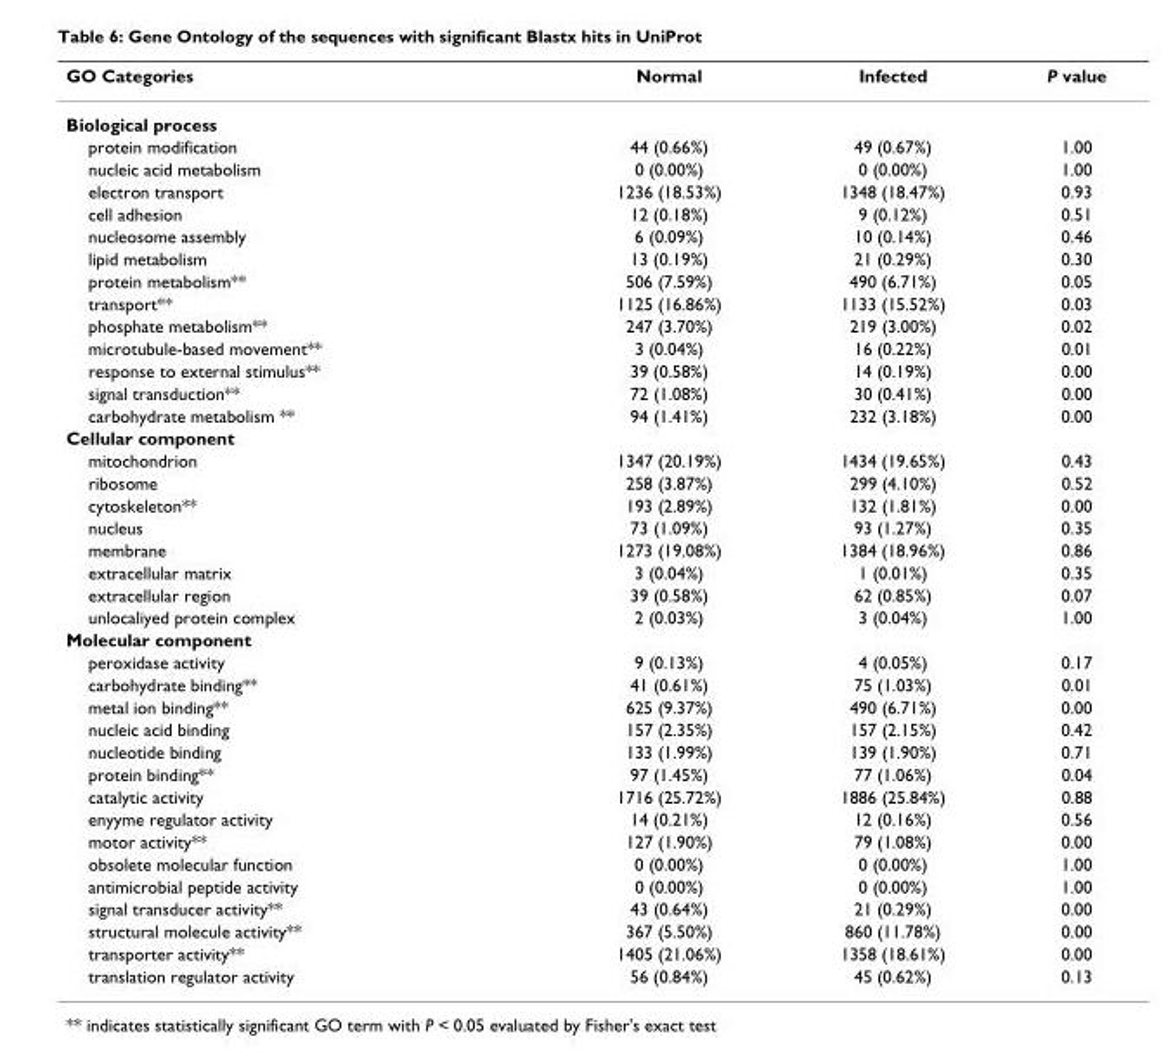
<table><thead><tr><td>GO Categories</td><td>Normal</td><td>Infected</td><td>P value</td></tr></thead><tbody><tr><td colspan="4">Biological process</td></tr><tr><td>protein modification</td><td>44 (0.66%)</td><td>49 (0.67%)</td><td>1.00</td></tr><tr><td>nucleic acid metabolism</td><td>0 (0.00%)</td><td>0 (0.00%)</td><td>1.00</td></tr><tr><td>electron transport</td><td>1236 (18.53%)</td><td>1348 (18.47%)</td><td>0.93</td></tr><tr><td>cell adhesion</td><td>12 (0.18%)</td><td>9 (0.12%)</td><td>0.51</td></tr><tr><td>nucleosome assembly</td><td>6 (0.09%)</td><td>10 (0.14%)</td><td>0.46</td></tr><tr><td>lipid metabolism</td><td>13 (0.19%)</td><td>21 (0.29%)</td><td>0.30</td></tr><tr><td>protein metabolism**</td><td>506 (7.59%)</td><td>490 (6.71%)</td><td>0.05</td></tr><tr><td>transport**</td><td>1125 (16.86%)</td><td>1133 (15.52%)</td><td>0.03</td></tr><tr><td>phosphate metabolism**</td><td>247 (3.70%)</td><td>219 (3.00%)</td><td>0.02</td></tr><tr><td>microtubule-based movement**</td><td>3 (0.04%)</td><td>16 (0.22%)</td><td>0.01</td></tr><tr><td>response to external stimulus**</td><td>39 (0.58%)</td><td>14 (0.19%)</td><td>0.00</td></tr><tr><td>signal transduction**</td><td>72 (1.08%)</td><td>30 (0.41%)</td><td>0.00</td></tr><tr><td>carbohydrate metabolism **</td><td>94 (1.41%)</td><td>232 (3.18%)</td><td>0.00</td></tr><tr><td colspan="4">Cellular component</td></tr><tr><td>mitochondrion</td><td>1347 (20.19%)</td><td>1434 (19.65%)</td><td>0.43</td></tr><tr><td>ribosome</td><td>258 (3.87%)</td><td>299 (4.10%)</td><td>0.52</td></tr><tr><td>cytoskeleton**</td><td>193 (2.89%)</td><td>132 (1.81%)</td><td>0.00</td></tr><tr><td>nucleus</td><td>73 (1.09%)</td><td>93 (1.27%)</td><td>0.35</td></tr><tr><td>membrane</td><td>1273 (19.08%)</td><td>1384 (18.96%)</td><td>0.86</td></tr><tr><td>extracellular matrix</td><td>3 (0.04%)</td><td>1 (0.01%)</td><td>0.35</td></tr><tr><td>extracellular region</td><td>39 (0.58%)</td><td>62 (0.85%)</td><td>0.07</td></tr><tr><td>unlocaliyed protein complex</td><td>2 (0.03%)</td><td>3 (0.04%)</td><td>1.00</td></tr><tr><td colspan="4">Molecular component</td></tr><tr><td>peroxidase activity</td><td>9 (0.13%)</td><td>4 (0.05%)</td><td>0.17</td></tr><tr><td>carbohydrate binding**</td><td>41 (0.61%)</td><td>75 (1.03%)</td><td>0.01</td></tr><tr><td>metal ion binding**</td><td>625 (9.37%)</td><td>490 (6.71%)</td><td>0.00</td></tr><tr><td>nucleic acid binding</td><td>157 (2.35%)</td><td>157 (2.15%)</td><td>0.42</td></tr><tr><td>nucleotide binding</td><td>133 (1.99%)</td><td>139 (1.90%)</td><td>0.71</td></tr><tr><td>protein binding**</td><td>97 (1.45%)</td><td>77 (1.06%)</td><td>0.04</td></tr><tr><td>catalytic activity</td><td>1716 (25.72%)</td><td>1886 (25.84%)</td><td>0.88</td></tr><tr><td>enyyme regulator activity</td><td>14 (0.21%)</td><td>12 (0.16%)</td><td>0.56</td></tr><tr><td>motor activity**</td><td>127 (1.90%)</td><td>79 (1.08%)</td><td>0.00</td></tr><tr><td>obsolete molecular function</td><td>0 (0.00%)</td><td>0 (0.00%)</td><td>1.00</td></tr><tr><td>antimicrobial peptide activity</td><td>0 (0.00%)</td><td>0 (0.00%)</td><td>1.00</td></tr><tr><td>signal transducer activity**</td><td>43 (0.64%)</td><td>21 (0.29%)</td><td>0.00</td></tr><tr><td>structural molecule activity**</td><td>367 (5.50%)</td><td>860 (11.78%)</td><td>0.00</td></tr><tr><td>transporter activity**</td><td>1405 (21.06%)</td><td>1358 (18.61%)</td><td>0.00</td></tr><tr><td>translation regulator activity</td><td>56 (0.84%)</td><td>45 (0.62%)</td><td>0.13</td></tr></tbody></table>